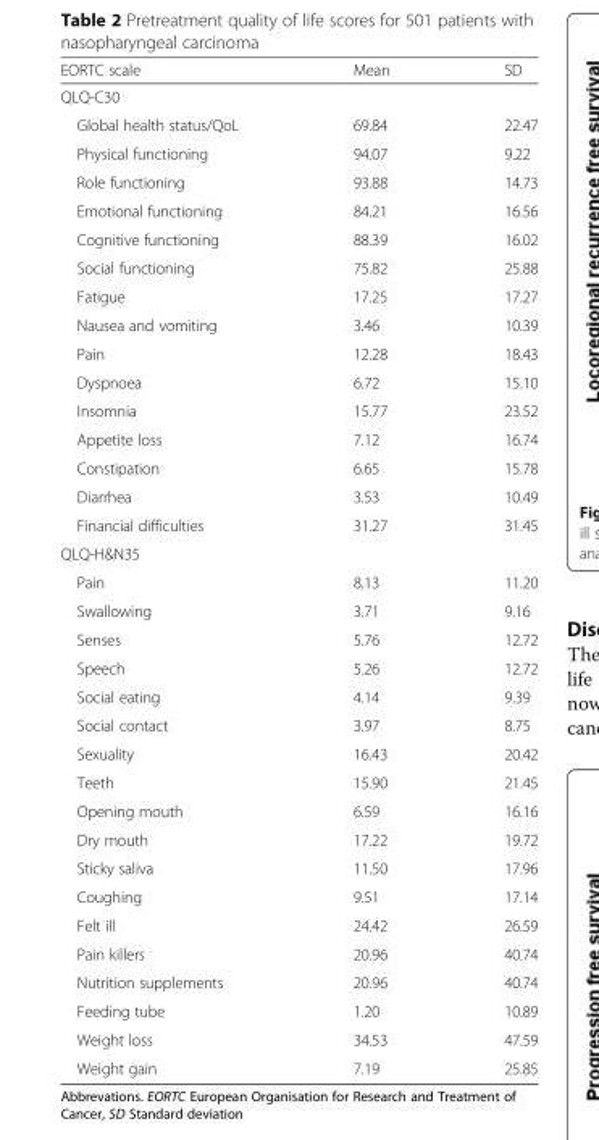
<table><thead><tr><td>EORTC scale</td><td>Mean</td><td>SD</td></tr></thead><tbody><tr><td colspan="3">QLQ-C30</td></tr><tr><td>Global health status/QoL</td><td>69.84</td><td>22.47</td></tr><tr><td>Physical functioning</td><td>94.07</td><td>9.22</td></tr><tr><td>Role functioning</td><td>93.88</td><td>14.73</td></tr><tr><td>Emotional functioning</td><td>84.21</td><td>16.56</td></tr><tr><td>Cognitive functioning</td><td>88.39</td><td>16.02</td></tr><tr><td>Social functioning</td><td>75.82</td><td>25.88</td></tr><tr><td>Fatigue</td><td>17.25</td><td>17.27</td></tr><tr><td>Nausea and vomiting</td><td>3.46</td><td>10.39</td></tr><tr><td>Pain</td><td>12.28</td><td>18.43</td></tr><tr><td>Dyspnoea</td><td>6.72</td><td>15.10</td></tr><tr><td>Insomnia</td><td>15.77</td><td>23.52</td></tr><tr><td>Appetite loss</td><td>7.12</td><td>16.74</td></tr><tr><td>Constipation</td><td>6.65</td><td>15.78</td></tr><tr><td>Diarrhea</td><td>3.53</td><td>10.49</td></tr><tr><td>Financial difficulties</td><td>31.27</td><td>31.45</td></tr><tr><td colspan="3">QLQ-H&amp;N35</td></tr><tr><td>Pain</td><td>8.13</td><td>11.20</td></tr><tr><td>Swallowing</td><td>3.71</td><td>9.16</td></tr><tr><td>Senses</td><td>5.76</td><td>12.72</td></tr><tr><td>Speech</td><td>5.26</td><td>12.72</td></tr><tr><td>Social eating</td><td>4.14</td><td>9.39</td></tr><tr><td>Social contact</td><td>3.97</td><td>8.75</td></tr><tr><td>Sexuality</td><td>16.43</td><td>20.42</td></tr><tr><td>Teeth</td><td>15.90</td><td>21.45</td></tr><tr><td>Opening mouth</td><td>6.59</td><td>16.16</td></tr><tr><td>Dry mouth</td><td>17.22</td><td>19.72</td></tr><tr><td>Sticky saliva</td><td>11.50</td><td>17.96</td></tr><tr><td>Coughing</td><td>9.51</td><td>17.14</td></tr><tr><td>Felt ill</td><td>24.42</td><td>26.59</td></tr><tr><td>Pain killers</td><td>20.96</td><td>40.74</td></tr><tr><td>Nutrition supplements</td><td>20.96</td><td>40.74</td></tr><tr><td>Feeding tube</td><td>1.20</td><td>10.89</td></tr><tr><td>Weight loss</td><td>34.53</td><td>47.59</td></tr><tr><td>Weight gain</td><td>7.19</td><td>25.85</td></tr></tbody></table>